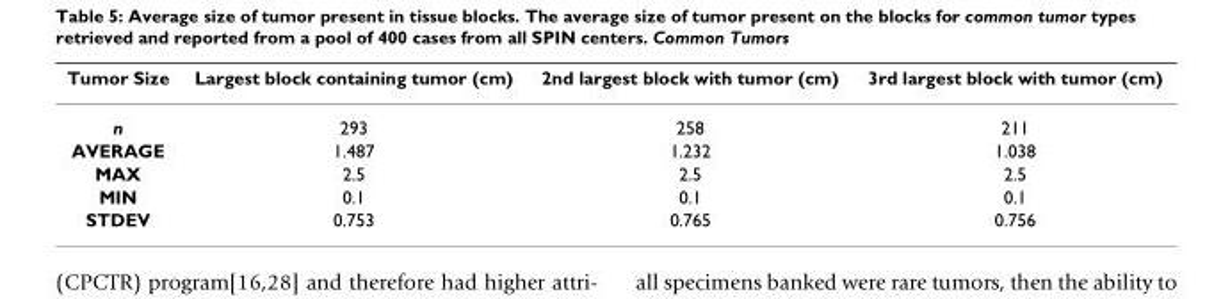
<table><thead><tr><td>Tumor Size</td><td>Largest block containing tumor (cm)</td><td>2nd largest block with tumor (cm)</td><td>3rd largest block with tumor (cm)</td></tr></thead><tbody><tr><td>n</td><td>293</td><td>258</td><td>211</td></tr><tr><td>AVERAGE</td><td>1.487</td><td>1.232</td><td>1.038</td></tr><tr><td>MAX</td><td>2.5</td><td>2.5</td><td>2.5</td></tr><tr><td>MIN</td><td>0.1</td><td>0.1</td><td>0.1</td></tr><tr><td>STDEV</td><td>0.753</td><td>0.765</td><td>0.756</td></tr></tbody></table>